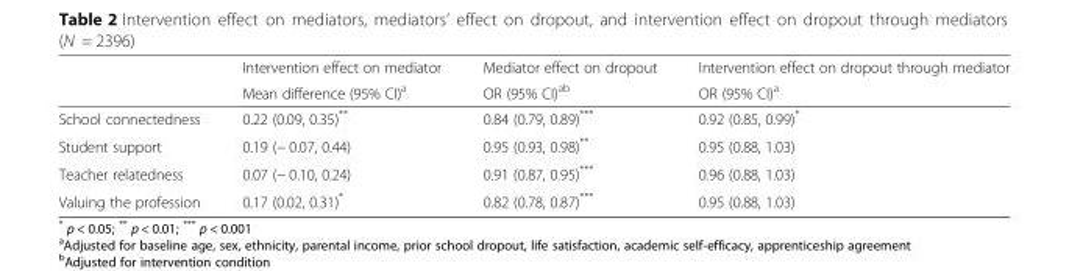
<table><thead><tr><td rowspan="2"></td><td rowspan="2">Intervention effect on mediator Mean difference (95% CI)<sup>a</sup></td><td rowspan="2">Mediator effect on dropout OR (95% CI)<sup>ab</sup></td><td rowspan="2">Intervention effect on dropout through mediator OR (95% CI)<sup>a</sup></td></tr><tr></tr></thead><tbody><tr><td>School connectedness</td><td>0.22 (0.09, 0.35)**</td><td>0.84 (0.79, 0.89)***</td><td>0.92 (0.85, 0.99)*</td></tr><tr><td>Student support</td><td>0.19 (− 0.07, 0.44)</td><td>0.95 (0.93, 0.98)**</td><td>0.95 (0.88, 1.03)</td></tr><tr><td>Teacher relatedness</td><td>0.07 (− 0.10, 0.24)</td><td>0.91 (0.87, 0.95)***</td><td>0.96 (0.88, 1.03)</td></tr><tr><td>Valuing the profession</td><td>0.17 (0.02, 0.31)*</td><td>0.82 (0.78, 0.87)***</td><td>0.95 (0.88, 1.03)</td></tr></tbody></table>